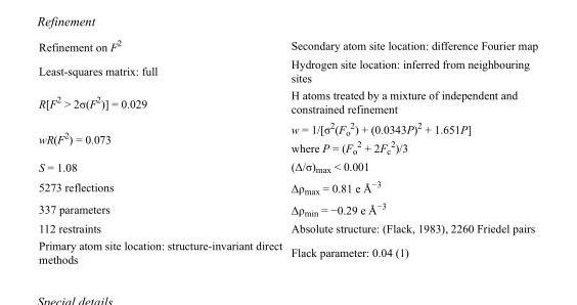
<table><tbody><tr><td>Refinement on F<sup>2</sup></td><td>Secondary atom site location: difference Fourier map</td></tr><tr><td>Least-squares matrix: full</td><td>Hydrogen site location: inferred from neighbouring sites</td></tr><tr><td>R[F<sup>2</sup> &gt; 2σ(F<sup>2</sup>)] = 0.029</td><td>H atoms treated by a mixture of independent and constrained refinement</td></tr><tr><td>wR(F<sup>2</sup>) = 0.073</td><td>w = 1/[σ<sup>2</sup>(F<sub>o</sub> <sup>2</sup>) + (0.0343P)<sup>2</sup> + 1.651P] where P = (F<sub>o</sub> <sup>2</sup> + 2F<sub>c</sub> <sup>2</sup>)/3</td></tr><tr><td>S = 1.08</td><td>(Δ/σ)<sub>max</sub> &lt; 0.001</td></tr><tr><td>5273 reflections</td><td>Δρ<sub>max</sub> = 0.81 e Å<sup>−3</sup></td></tr><tr><td>337 parameters</td><td>Δρ<sub>min</sub> = −0.29 e Å<sup>−3</sup></td></tr><tr><td>112 restraints</td><td>Absolute structure: (Flack, 1983), 2260 Friedel pairs</td></tr><tr><td>Primary atom site location: structure-invariant direct methods</td><td>Flack parameter: 0.04 (1)</td></tr></tbody></table>